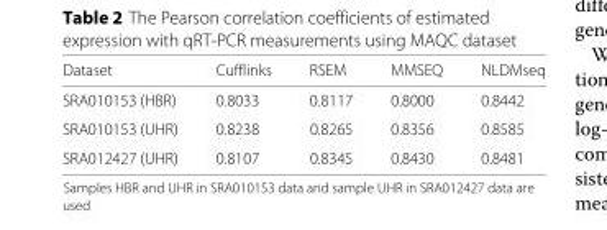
<table><thead><tr><td>Dataset</td><td>Cufflinks</td><td>RSEM</td><td>MMSEQ</td><td>NLDMseq</td></tr></thead><tbody><tr><td>SRA010153 (HBR)</td><td>0.8033</td><td>0.8117</td><td>0.8000</td><td>0.8442</td></tr><tr><td>SRA010153 (UHR)</td><td>0.8238</td><td>0.8265</td><td>0.8356</td><td>0.8585</td></tr><tr><td>SRA012427 (UHR)</td><td>0.8107</td><td>0.8345</td><td>0.8430</td><td>0.8481</td></tr></tbody></table>